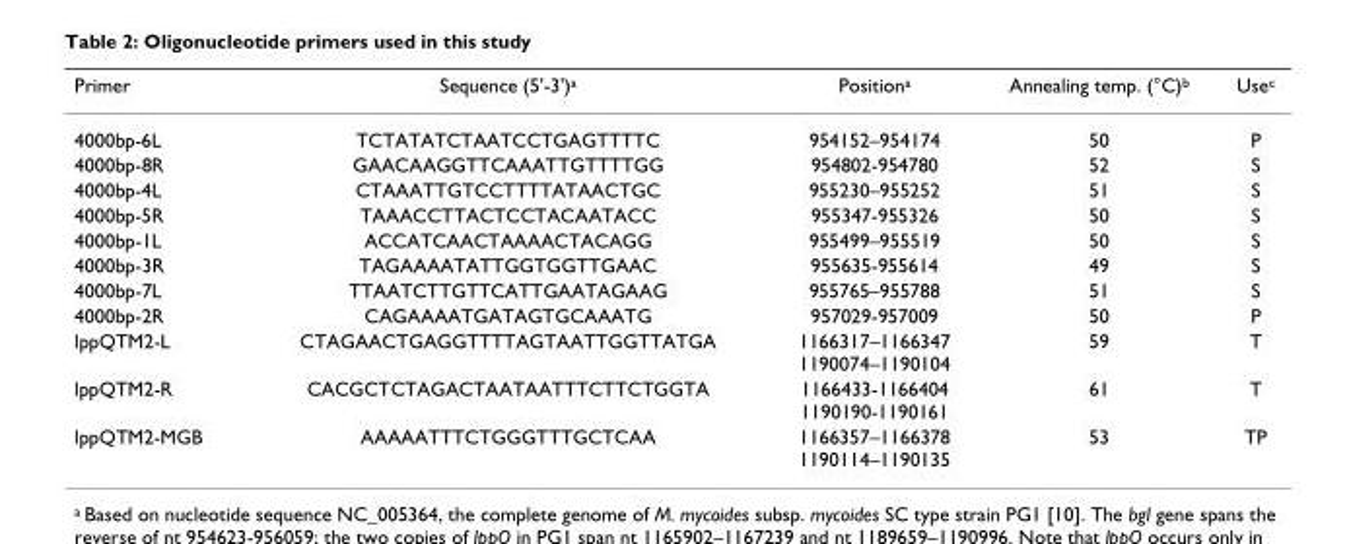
<table><thead><tr><td>Primer</td><td>Sequence (5&#x27;-3&#x27;)a</td><td>Positiona</td><td>Annealing temp. (°C)b</td><td>Usec</td></tr></thead><tbody><tr><td>4000bp-6L</td><td>TCTATATCTAATCCTGAGTTTTC</td><td>954152–954174</td><td>50</td><td>P</td></tr><tr><td>4000bp-8R</td><td>GAACAAGGTTCAAATTGTTTTGG</td><td>954802-954780</td><td>52</td><td>S</td></tr><tr><td>4000bp-4L</td><td>CTAAATTGTCCTTTTATAACTGC</td><td>955230–955252</td><td>51</td><td>S</td></tr><tr><td>4000bp-5R</td><td>TAAACCTTACTCCTACAATACC</td><td>955347-955326</td><td>50</td><td>S</td></tr><tr><td>4000bp-1L</td><td>ACCATCAACTAAAACTACAGG</td><td>955499–955519</td><td>50</td><td>S</td></tr><tr><td>4000bp-3R</td><td>TAGAAAATATTGGTGGTTGAAC</td><td>955635-955614</td><td>49</td><td>S</td></tr><tr><td>4000bp-7L</td><td>TTAATCTTGTTCATTGAATAGAAG</td><td>955765–955788</td><td>51</td><td>S</td></tr><tr><td>4000bp-2R</td><td>CAGAAAATGATAGTGCAAATG</td><td>957029-957009</td><td>50</td><td>P</td></tr><tr><td>lppQTM2-L</td><td>CTAGAACTGAGGTTTTAGTAATTGGTTATGA</td><td>1166317–1166347 1190074–1190104</td><td>59</td><td>T</td></tr><tr><td>lppQTM2-R</td><td>CACGCTCTAGACTAATAATTTCTTCTGGTA</td><td>1166433-1166404 1190190-1190161</td><td>61</td><td>T</td></tr><tr><td>lppQTM2-MGB</td><td>AAAAATTTCTGGGTTTGCTCAA</td><td>1166357–1166378 1190114–1190135</td><td>53</td><td>TP</td></tr></tbody></table>